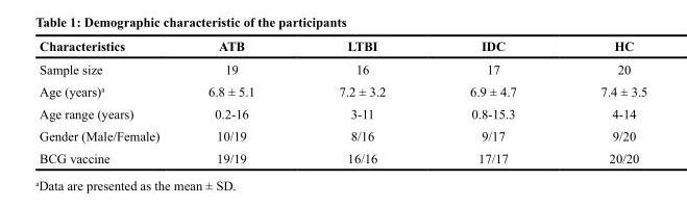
<table><thead><tr><td>Characteristics</td><td>ATB</td><td>LTBI</td><td>IDC</td><td>HC</td></tr></thead><tbody><tr><td>Sample size</td><td>19</td><td>16</td><td>17</td><td>20</td></tr><tr><td>Age (years)<sup>a</sup></td><td>6.8 ± 5.1</td><td>7.2 ± 3.2</td><td>6.9 ± 4.7</td><td>7.4 ± 3.5</td></tr><tr><td>Age range (years)</td><td>0.2-16</td><td>3-11</td><td>0.8-15.3</td><td>4-14</td></tr><tr><td>Gender (Male/Female)</td><td>10/19</td><td>8/16</td><td>9/17</td><td>9/20</td></tr><tr><td>BCG vaccine</td><td>19/19</td><td>16/16</td><td>17/17</td><td>20/20</td></tr></tbody></table>